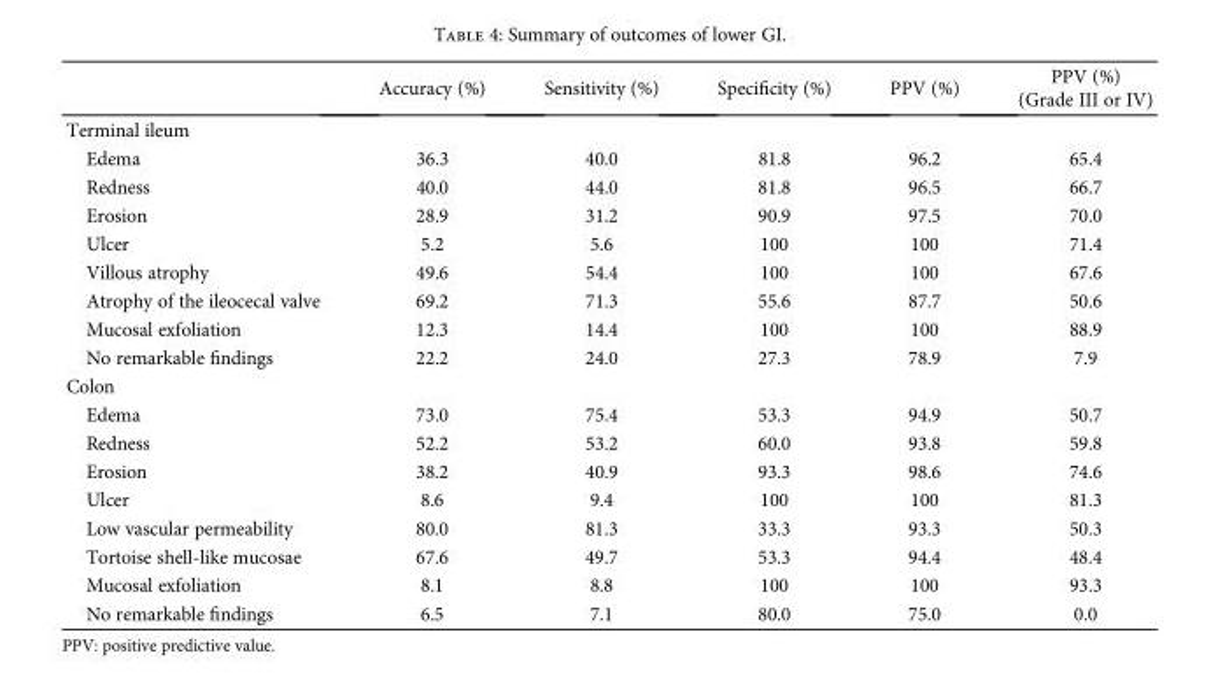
<table><thead><tr><td></td><td>Accuracy (%)</td><td>Sensitivity (%)</td><td>Specificity (%)</td><td>PPV (%)</td><td>PPV (%) (Grade III or IV)</td></tr></thead><tbody><tr><td colspan="6">Terminal ileum</td></tr><tr><td>Edema</td><td>36.3</td><td>40.0</td><td>81.8</td><td>96.2</td><td>65.4</td></tr><tr><td>Redness</td><td>40.0</td><td>44.0</td><td>81.8</td><td>96.5</td><td>66.7</td></tr><tr><td>Erosion</td><td>28.9</td><td>31.2</td><td>90.9</td><td>97.5</td><td>70.0</td></tr><tr><td>Ulcer</td><td>5.2</td><td>5.6</td><td>100</td><td>100</td><td>71.4</td></tr><tr><td>Villous atrophy</td><td>49.6</td><td>54.4</td><td>100</td><td>100</td><td>67.6</td></tr><tr><td>Atrophy of the ileocecal valve</td><td>69.2</td><td>71.3</td><td>55.6</td><td>87.7</td><td>50.6</td></tr><tr><td>Mucosal exfoliation</td><td>12.3</td><td>14.4</td><td>100</td><td>100</td><td>88.9</td></tr><tr><td>No remarkable findings</td><td>22.2</td><td>24.0</td><td>27.3</td><td>78.9</td><td>7.9</td></tr><tr><td colspan="6">Colon</td></tr><tr><td>Edema</td><td>73.0</td><td>75.4</td><td>53.3</td><td>94.9</td><td>50.7</td></tr><tr><td>Redness</td><td>52.2</td><td>53.2</td><td>60.0</td><td>93.8</td><td>59.8</td></tr><tr><td>Erosion</td><td>38.2</td><td>40.9</td><td>93.3</td><td>98.6</td><td>74.6</td></tr><tr><td>Ulcer</td><td>8.6</td><td>9.4</td><td>100</td><td>100</td><td>81.3</td></tr><tr><td>Low vascular permeability</td><td>80.0</td><td>81.3</td><td>33.3</td><td>93.3</td><td>50.3</td></tr><tr><td>Tortoise shell-like mucosae</td><td>67.6</td><td>49.7</td><td>53.3</td><td>94.4</td><td>48.4</td></tr><tr><td>Mucosal exfoliation</td><td>8.1</td><td>8.8</td><td>100</td><td>100</td><td>93.3</td></tr><tr><td>No remarkable findings</td><td>6.5</td><td>7.1</td><td>80.0</td><td>75.0</td><td>0.0</td></tr></tbody></table>